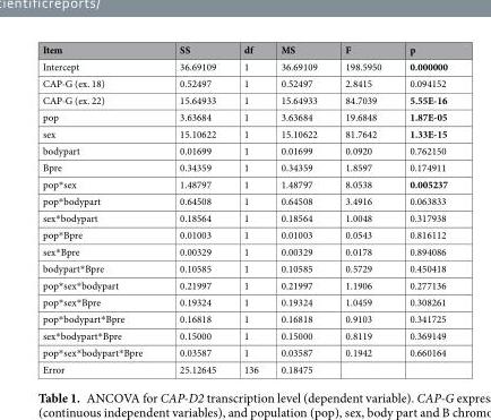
<table><thead><tr><td>Item</td><td>SS</td><td>df</td><td>MS</td><td>F</td><td>p</td></tr></thead><tbody><tr><td>Intercept</td><td>36.69109</td><td>1</td><td>36.69109</td><td>198.5950</td><td>0.000000</td></tr><tr><td>CAP-G (ex. 18)</td><td>0.52497</td><td>1</td><td>0.52497</td><td>2.8415</td><td>0.094152</td></tr><tr><td>CAP-G (ex. 22)</td><td>15.64933</td><td>1</td><td>15.64933</td><td>84.7039</td><td>5.55E-16</td></tr><tr><td>pop</td><td>3.63684</td><td>1</td><td>3.63684</td><td>19.6848</td><td>1.87E-05</td></tr><tr><td>sex</td><td>15.10622</td><td>1</td><td>15.10622</td><td>81.7642</td><td>1.33E-15</td></tr><tr><td>bodypart</td><td>0.01699</td><td>1</td><td>0.01699</td><td>0.0920</td><td>0.762150</td></tr><tr><td>Bpre</td><td>0.34359</td><td>1</td><td>0.34359</td><td>1.8597</td><td>0.174911</td></tr><tr><td>pop*sex</td><td>1.48797</td><td>1</td><td>1.48797</td><td>8.0538</td><td>0.005237</td></tr><tr><td>pop*bodypart</td><td>0.64508</td><td>1</td><td>0.64508</td><td>3.4916</td><td>0.063833</td></tr><tr><td>sex*bodypart</td><td>0.18564</td><td>1</td><td>0.18564</td><td>1.0048</td><td>0.317938</td></tr><tr><td>pop*Bpre</td><td>0.01003</td><td>1</td><td>0.01003</td><td>0.0543</td><td>0.816112</td></tr><tr><td>sex*Bpre</td><td>0.00329</td><td>1</td><td>0.00329</td><td>0.0178</td><td>0.894086</td></tr><tr><td>bodypart*Bpre</td><td>0.10585</td><td>1</td><td>0.10585</td><td>0.5729</td><td>0.450418</td></tr><tr><td>pop*sex*bodypart</td><td>0.21997</td><td>1</td><td>0.21997</td><td>1.1906</td><td>0.277136</td></tr><tr><td>pop*sex*Bpre</td><td>0.19324</td><td>1</td><td>0.19324</td><td>1.0459</td><td>0.308261</td></tr><tr><td>pop*bodypart*Bpre</td><td>0.16818</td><td>1</td><td>0.16818</td><td>0.9103</td><td>0.341725</td></tr><tr><td>sex*bodypart*Bpre</td><td>0.15000</td><td>1</td><td>0.15000</td><td>0.8119</td><td>0.369149</td></tr><tr><td>pop*sex*bodypart*Bpre</td><td>0.03587</td><td>1</td><td>0.03587</td><td>0.1942</td><td>0.660164</td></tr><tr><td>Error</td><td>25.12645</td><td>136</td><td>0.18475</td><td></td><td></td></tr></tbody></table>